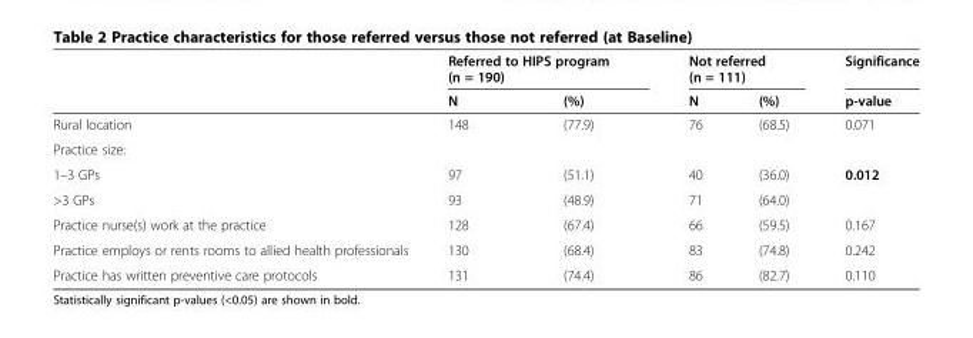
<table><thead><tr><td rowspan="2"></td><td colspan="2">Referred to HIPS program (n = 190)</td><td colspan="2">Not referred (n = 111)</td><td rowspan="2">Significance p-value</td></tr><tr><td>N</td><td>(%)</td><td>N</td><td>(%)</td></tr></thead><tbody><tr><td>Rural location</td><td>148</td><td>(77.9)</td><td>76</td><td>(68.5)</td><td>0.071</td></tr><tr><td colspan="6">Practice size:</td></tr><tr><td>1–3 GPs</td><td>97</td><td>(51.1)</td><td>40</td><td>(36.0)</td><td>0.012</td></tr><tr><td>&gt;3 GPs</td><td>93</td><td>(48.9)</td><td>71</td><td>(64.0)</td><td></td></tr><tr><td>Practice nurse(s) work at the practice</td><td>128</td><td>(67.4)</td><td>66</td><td>(59.5)</td><td>0.167</td></tr><tr><td>Practice employs or rents rooms to allied health professionals</td><td>130</td><td>(68.4)</td><td>83</td><td>(74.8)</td><td>0.242</td></tr><tr><td>Practice has written preventive care protocols</td><td>131</td><td>(74.4)</td><td>86</td><td>(82.7)</td><td>0.110</td></tr></tbody></table>